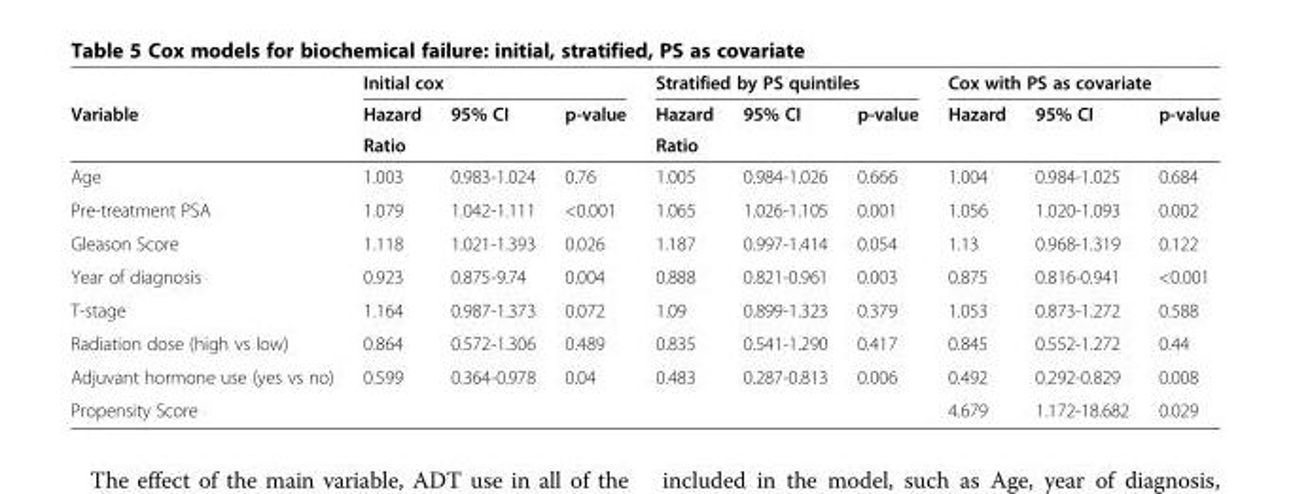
<table><thead><tr><td rowspan="3">Variable</td><td colspan="3">Initial cox</td><td colspan="3">Stratified by PS quintiles</td><td colspan="3">Cox with PS as covariate</td></tr><tr><td rowspan="2">Hazard Ratio</td><td rowspan="2">95% CI</td><td rowspan="2">p-value</td><td rowspan="2">Hazard Ratio</td><td rowspan="2">95% CI</td><td rowspan="2">p-value</td><td rowspan="2">Hazard</td><td rowspan="2">95% CI</td><td rowspan="2">p-value</td></tr><tr></tr></thead><tbody><tr><td>Age</td><td>1.003</td><td>0.983-1.024</td><td>0.76</td><td>1.005</td><td>0.984-1.026</td><td>0.666</td><td>1.004</td><td>0.984-1.025</td><td>0.684</td></tr><tr><td>Pre-treatment PSA</td><td>1.079</td><td>1.042-1.111</td><td>&lt;0.001</td><td>1.065</td><td>1.026-1.105</td><td>0.001</td><td>1.056</td><td>1.020-1.093</td><td>0.002</td></tr><tr><td>Gleason Score</td><td>1.118</td><td>1.021-1.393</td><td>0.026</td><td>1.187</td><td>0.997-1.414</td><td>0.054</td><td>1.13</td><td>0.968-1.319</td><td>0.122</td></tr><tr><td>Year of diagnosis</td><td>0.923</td><td>0.875-9.74</td><td>0.004</td><td>0.888</td><td>0.821-0.961</td><td>0.003</td><td>0.875</td><td>0.816-0.941</td><td>&lt;0.001</td></tr><tr><td>T-stage</td><td>1.164</td><td>0.987-1.373</td><td>0.072</td><td>1.09</td><td>0.899-1.323</td><td>0.379</td><td>1.053</td><td>0.873-1.272</td><td>0.588</td></tr><tr><td>Radiation dose (high vs low)</td><td>0.864</td><td>0.572-1.306</td><td>0.489</td><td>0.835</td><td>0.541-1.290</td><td>0.417</td><td>0.845</td><td>0.552-1.272</td><td>0.44</td></tr><tr><td>Adjuvant hormone use (yes vs no)</td><td>0.599</td><td>0.364-0.978</td><td>0.04</td><td>0.483</td><td>0.287-0.813</td><td>0.006</td><td>0.492</td><td>0.292-0.829</td><td>0.008</td></tr><tr><td>Propensity Score</td><td></td><td></td><td></td><td></td><td></td><td></td><td>4.679</td><td>1.172-18.682</td><td>0.029</td></tr></tbody></table>